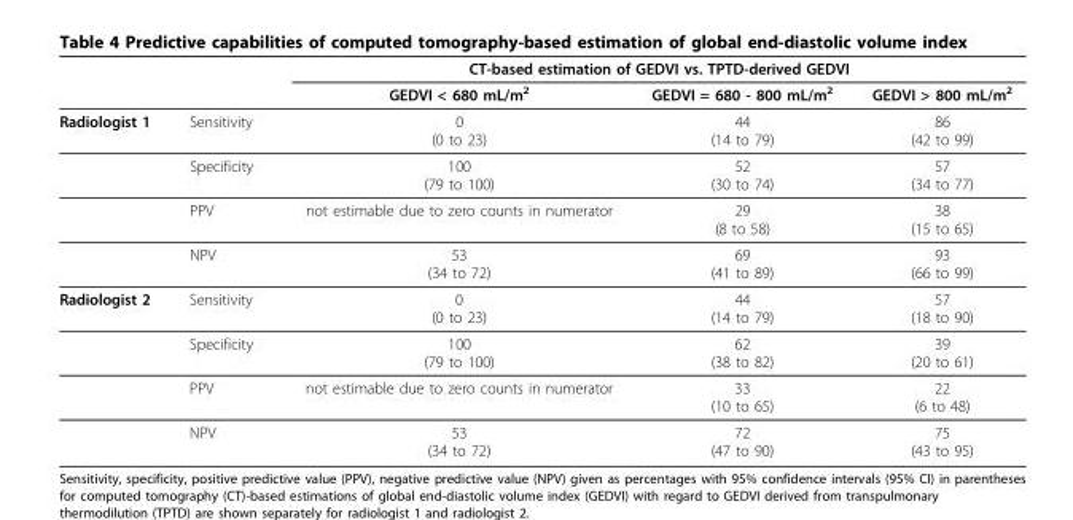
<table><thead><tr><td rowspan="2"></td><td rowspan="2"></td><td colspan="3">CT-based estimation of GEDVI vs. TPTD-derived GEDVI</td></tr><tr><td>GEDVI &lt; 680 mL/m<sup>2</sup></td><td>GEDVI = 680 - 800 mL/m<sup>2</sup></td><td>GEDVI &gt; 800 mL/m<sup>2</sup></td></tr></thead><tbody><tr><td rowspan="4">Radiologist 1</td><td>Sensitivity</td><td>0 (0 to 23)</td><td>44 (14 to 79)</td><td>86 (42 to 99)</td></tr><tr><td>Specificity</td><td>100 (79 to 100)</td><td>52 (30 to 74)</td><td>57 (34 to 77)</td></tr><tr><td>PPV</td><td>not estimable due to zero counts in numerator</td><td>29 (8 to 58)</td><td>38 (15 to 65)</td></tr><tr><td>NPV</td><td>53 (34 to 72)</td><td>69 (41 to 89)</td><td>93 (66 to 99)</td></tr><tr><td rowspan="4">Radiologist 2</td><td>Sensitivity</td><td>0 (0 to 23)</td><td>44 (14 to 79)</td><td>57 (18 to 90)</td></tr><tr><td>Specificity</td><td>100 (79 to 100)</td><td>62 (38 to 82)</td><td>39 (20 to 61)</td></tr><tr><td>PPV</td><td>not estimable due to zero counts in numerator</td><td>33 (10 to 65)</td><td>22 (6 to 48)</td></tr><tr><td>NPV</td><td>53 (34 to 72)</td><td>72 (47 to 90)</td><td>75 (43 to 95)</td></tr></tbody></table>